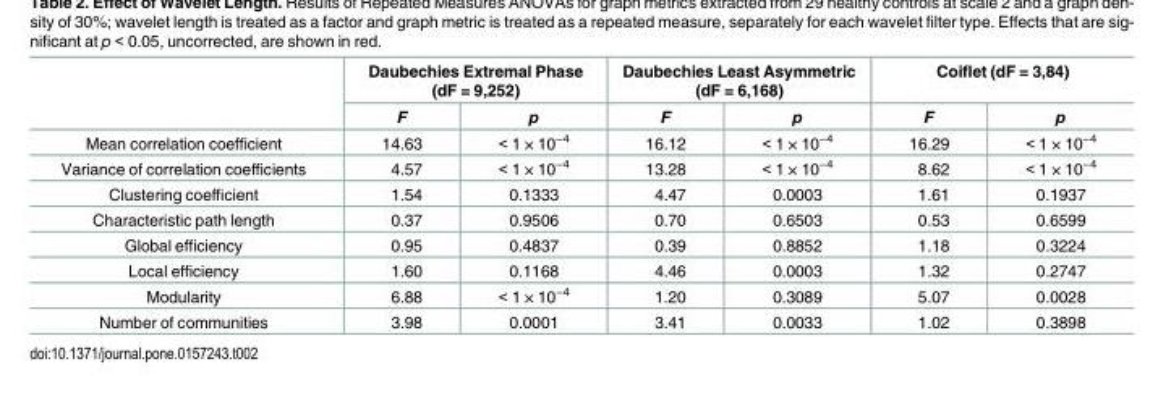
<table><thead><tr><td rowspan="2"></td><td colspan="2">Daubechies Extremal Phase (dF = 9,252)</td><td colspan="2">Daubechies Least Asymmetric (dF = 6,168)</td><td colspan="2">Coiflet (dF = 3,84)</td></tr><tr><td>F</td><td>p</td><td>F</td><td>p</td><td>F</td><td>p</td></tr></thead><tbody><tr><td>Mean correlation coefficient</td><td>14.63</td><td>&lt; 1 × 10<sup>−4</sup></td><td>16.12</td><td>&lt; 1 × 10<sup>−4</sup></td><td>16.29</td><td>&lt; 1 × 10<sup>−4</sup></td></tr><tr><td>Variance of correlation coefficients</td><td>4.57</td><td>&lt; 1 × 10<sup>−4</sup></td><td>13.28</td><td>&lt; 1 × 10<sup>−4</sup></td><td>8.62</td><td>&lt; 1 × 10<sup>−4</sup></td></tr><tr><td>Clustering coefficient</td><td>1.54</td><td>0.1333</td><td>4.47</td><td>0.0003</td><td>1.61</td><td>0.1937</td></tr><tr><td>Characteristic path length</td><td>0.37</td><td>0.9506</td><td>0.70</td><td>0.6503</td><td>0.53</td><td>0.6599</td></tr><tr><td>Global efficiency</td><td>0.95</td><td>0.4837</td><td>0.39</td><td>0.8852</td><td>1.18</td><td>0.3224</td></tr><tr><td>Local efficiency</td><td>1.60</td><td>0.1168</td><td>4.46</td><td>0.0003</td><td>1.32</td><td>0.2747</td></tr><tr><td>Modularity</td><td>6.88</td><td>&lt; 1 × 10<sup>−4</sup></td><td>1.20</td><td>0.3089</td><td>5.07</td><td>0.0028</td></tr><tr><td>Number of communities</td><td>3.98</td><td>0.0001</td><td>3.41</td><td>0.0033</td><td>1.02</td><td>0.3898</td></tr></tbody></table>